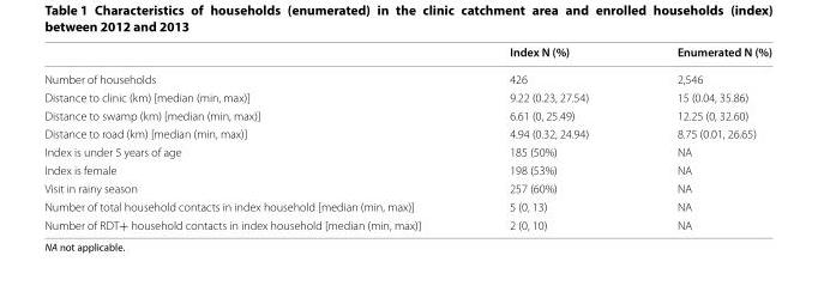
<table><thead><tr><td></td><td>Index N (%)</td><td>Enumerated N (%)</td></tr></thead><tbody><tr><td>Number of households</td><td>426</td><td>2,546</td></tr><tr><td>Distance to clinic (km) [median (min, max)]</td><td>9.22 (0.23, 27.54)</td><td>15 (0.04, 35.86)</td></tr><tr><td>Distance to swamp (km) [median (min, max)]</td><td>6.61 (0, 25.49)</td><td>12.25 (0, 32.60)</td></tr><tr><td>Distance to road (km) [median (min, max)]</td><td>4.94 (0.32, 24.94)</td><td>8.75 (0.01, 26.65)</td></tr><tr><td>Index is under 5 years of age</td><td>185 (50%)</td><td>NA</td></tr><tr><td>Index is female</td><td>198 (53%)</td><td>NA</td></tr><tr><td>Visit in rainy season</td><td>257 (60%)</td><td>NA</td></tr><tr><td>Number of total household contacts in index household [median (min, max)]</td><td>5 (0, 13)</td><td>NA</td></tr><tr><td>Number of RDT+ household contacts in index household [median (min, max)]</td><td>2 (0, 10)</td><td>NA</td></tr></tbody></table>